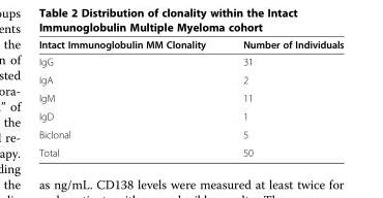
<table><thead><tr><td>Intact Immunoglobulin MM Clonality</td><td>Number of Individuals</td></tr></thead><tbody><tr><td>IgG</td><td>31</td></tr><tr><td>IgA</td><td>2</td></tr><tr><td>IgM</td><td>11</td></tr><tr><td>IgD</td><td>1</td></tr><tr><td>Biclonal</td><td>5</td></tr><tr><td>Total</td><td>50</td></tr></tbody></table>